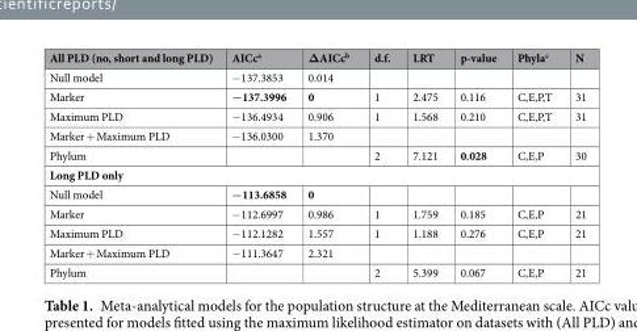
<table><thead><tr><td>All PLD (no, short and long PLD)</td><td>AICc<sup>a</sup></td><td>ΔAICc<sup>b</sup></td><td>d.f.</td><td>LRT</td><td>p-value</td><td>Phyla<sup>c</sup></td><td>N</td></tr></thead><tbody><tr><td>Null model</td><td>−137.3853</td><td>0.014</td><td></td><td></td><td></td><td></td><td></td></tr><tr><td>Marker</td><td>−137.3996</td><td>0</td><td>1</td><td>2.475</td><td>0.116</td><td>C,E,P,T</td><td>31</td></tr><tr><td>Maximum PLD</td><td>−136.4934</td><td>0.906</td><td>1</td><td>1.568</td><td>0.210</td><td>C,E,P,T</td><td>31</td></tr><tr><td>Marker + Maximum PLD</td><td>−136.0300</td><td>1.370</td><td></td><td></td><td></td><td></td><td></td></tr><tr><td>Phylum</td><td></td><td></td><td>2</td><td>7.121</td><td>0.028</td><td>C,E,P</td><td>30</td></tr><tr><td colspan="8">Long PLD only</td></tr><tr><td>Null model</td><td>−113.6858</td><td>0</td><td></td><td></td><td></td><td></td><td></td></tr><tr><td>Marker</td><td>−112.6997</td><td>0.986</td><td>1</td><td>1.759</td><td>0.185</td><td>C,E,P</td><td>21</td></tr><tr><td>Maximum PLD</td><td>−112.1282</td><td>1.557</td><td>1</td><td>1.188</td><td>0.276</td><td>C,E,P</td><td>21</td></tr><tr><td>Marker + Maximum PLD</td><td>−111.3647</td><td>2.321</td><td></td><td></td><td></td><td></td><td></td></tr><tr><td>Phylum</td><td></td><td></td><td>2</td><td>5.399</td><td>0.067</td><td>C,E,P</td><td>21</td></tr></tbody></table>